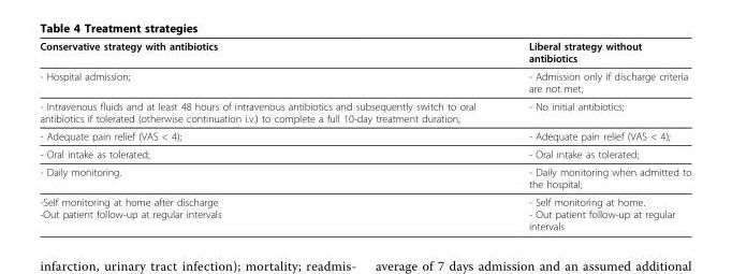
<table><thead><tr><td>Conservative strategy with antibiotics</td><td>Liberal strategy without antibiotics</td></tr></thead><tbody><tr><td>- Hospital admission;</td><td>- Admission only if discharge criteria are not met;</td></tr><tr><td>- Intravenous fluids and at least 48 hours of intravenous antibiotics and subsequently switch to oral antibiotics if tolerated (otherwise continuation i.v.) to complete a full 10-day treatment duration;</td><td>- No initial antibiotics;</td></tr><tr><td>- Adequate pain relief (VAS &lt; 4);</td><td>- Adequate pain relief (VAS &lt; 4);</td></tr><tr><td>- Oral intake as tolerated;</td><td>- Oral intake as tolerated;</td></tr><tr><td>- Daily monitoring.</td><td>- Daily monitoring when admitted to the hospital;</td></tr><tr><td>-Self monitoring at home after discharge -Out patient follow-up at regular intervals</td><td>- Self monitoring at home. - Out patient follow-up at regular intervals</td></tr></tbody></table>